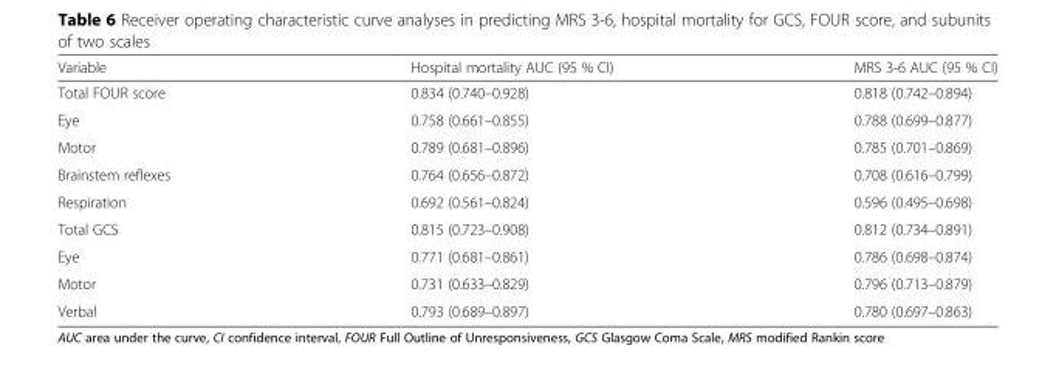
<table><thead><tr><td>Variable</td><td>Hospital mortality AUC (95 % CI)</td><td>MRS 3-6 AUC (95 % CI)</td></tr></thead><tbody><tr><td>Total FOUR score</td><td>0.834 (0.740–0.928)</td><td>0.818 (0.742–0.894)</td></tr><tr><td>Eye</td><td>0.758 (0.661–0.855)</td><td>0.788 (0.699–0.877)</td></tr><tr><td>Motor</td><td>0.789 (0.681–0.896)</td><td>0.785 (0.701–0.869)</td></tr><tr><td>Brainstem reflexes</td><td>0.764 (0.656–0.872)</td><td>0.708 (0.616–0.799)</td></tr><tr><td>Respiration</td><td>0.692 (0.561–0.824)</td><td>0.596 (0.495–0.698)</td></tr><tr><td>Total GCS</td><td>0.815 (0.723–0.908)</td><td>0.812 (0.734–0.891)</td></tr><tr><td>Eye</td><td>0.771 (0.681–0.861)</td><td>0.786 (0.698–0.874)</td></tr><tr><td>Motor</td><td>0.731 (0.633–0.829)</td><td>0.796 (0.713–0.879)</td></tr><tr><td>Verbal</td><td>0.793 (0.689–0.897)</td><td>0.780 (0.697–0.863)</td></tr></tbody></table>